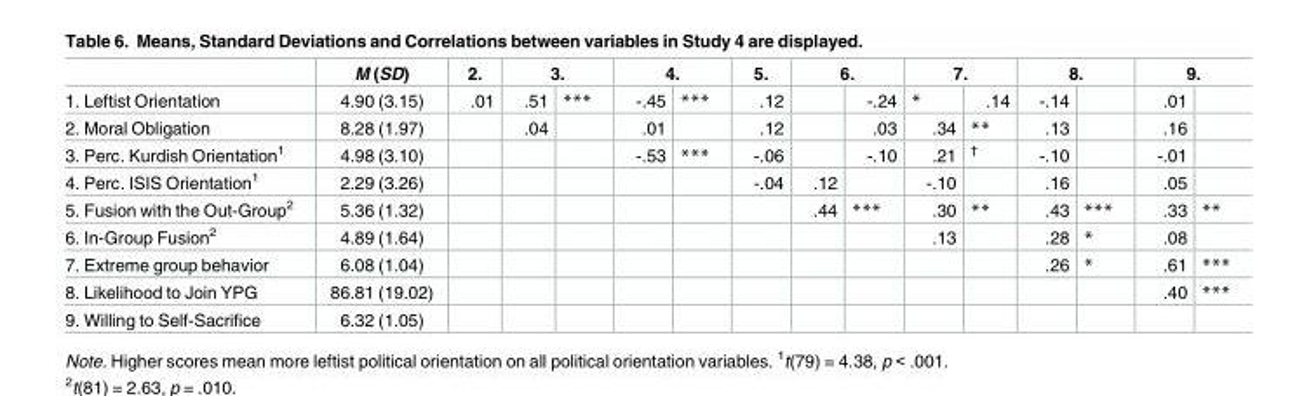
<table><thead><tr><td rowspan="2">1. Leftist Orientation</td><td rowspan="2">M (SD) 4.90 (3.15)</td><td rowspan="2">2. .01</td><td colspan="2">3.</td><td colspan="2">4.</td><td rowspan="2">5. .12</td><td colspan="2">6.</td><td colspan="2">7.</td><td colspan="2">8.</td><td colspan="2">9.</td></tr><tr><td>.51</td><td>***</td><td>-.45</td><td>***</td><td></td><td>-.24</td><td>*</td><td>.14</td><td>-.14</td><td></td><td>.01</td><td></td></tr></thead><tbody><tr><td>2. Moral Obligation</td><td>8.28 (1.97)</td><td></td><td>.04</td><td></td><td>.01</td><td></td><td>.12</td><td></td><td>.03</td><td>.34</td><td>**</td><td>.13</td><td></td><td>.16</td><td></td></tr><tr><td>3. Perc. Kurdish Orientation<sup>1</sup></td><td>4.98 (3.10)</td><td></td><td></td><td></td><td>-.53</td><td>***</td><td>-.06</td><td></td><td>-.10</td><td>.21</td><td><sup>†</sup></td><td>-.10</td><td></td><td>-.01</td><td></td></tr><tr><td>4. Perc. ISIS Orientation<sup>1</sup></td><td>2.29 (3.26)</td><td></td><td></td><td></td><td></td><td></td><td>-.04</td><td>.12</td><td></td><td>-.10</td><td></td><td>.16</td><td></td><td>.05</td><td></td></tr><tr><td>5. Fusion with the Out-Group<sup>2</sup></td><td>5.36 (1.32)</td><td></td><td></td><td></td><td></td><td></td><td></td><td>.44</td><td>***</td><td>.30</td><td>**</td><td>.43</td><td>***</td><td>.33</td><td>**</td></tr><tr><td>6. In-Group Fusion<sup>2</sup></td><td>4.89 (1.64)</td><td></td><td></td><td></td><td></td><td></td><td></td><td></td><td></td><td>.13</td><td></td><td>.28</td><td>*</td><td>.08</td><td></td></tr><tr><td>7. Extreme group behavior</td><td>6.08 (1.04)</td><td></td><td></td><td></td><td></td><td></td><td></td><td></td><td></td><td></td><td></td><td>.26</td><td>*</td><td>.61</td><td>***</td></tr><tr><td>8. Likelihood to Join YPG</td><td>86.81 (19.02)</td><td></td><td></td><td></td><td></td><td></td><td></td><td></td><td></td><td></td><td></td><td></td><td></td><td>.40</td><td>***</td></tr><tr><td>9. Willing to Self-Sacrifice</td><td>6.32 (1.05)</td><td></td><td></td><td></td><td></td><td></td><td></td><td></td><td></td><td></td><td></td><td></td><td></td><td></td><td></td></tr></tbody></table>